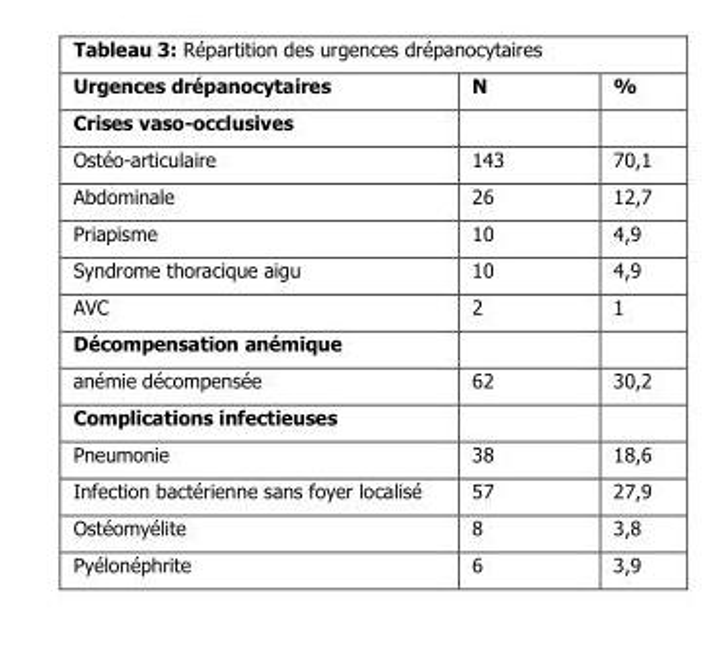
<table><thead><tr><td>Urgences drépanocytaires</td><td>N</td><td>%</td></tr></thead><tbody><tr><td colspan="3">Crises vaso-occlusives</td></tr><tr><td>Ostéo-articulaire</td><td>143</td><td>70,1</td></tr><tr><td>Abdominale</td><td>26</td><td>12,7</td></tr><tr><td>Priapisme</td><td>10</td><td>4,9</td></tr><tr><td>Syndrome thoracique aigu</td><td>10</td><td>4,9</td></tr><tr><td>AVC</td><td>2</td><td>1</td></tr><tr><td colspan="3">Décompensation anémique</td></tr><tr><td>anémie décompensée</td><td>62</td><td>30,2</td></tr><tr><td colspan="3">Complications infectieuses</td></tr><tr><td>Pneumonie</td><td>38</td><td>18,6</td></tr><tr><td>Infection bactérienne sans foyer localisé</td><td>57</td><td>27,9</td></tr><tr><td>Ostéomyélite</td><td>8</td><td>3,8</td></tr><tr><td>Pyélonéphrite</td><td>6</td><td>3,9</td></tr></tbody></table>